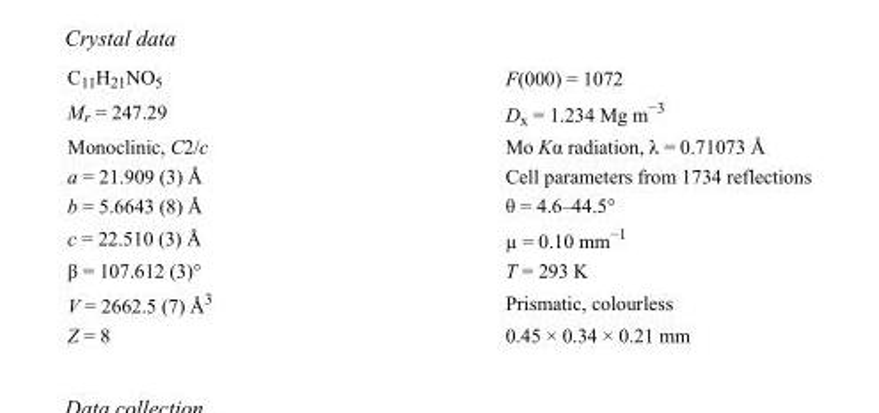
<table><tbody><tr><td>C<sub>11</sub>H<sub>21</sub>NO<sub>5</sub></td><td>F(000) = 1072</td></tr><tr><td>M<sub>r</sub> = 247.29</td><td>D<sub>x</sub> = 1.234 Mg m<sup>−3</sup></td></tr><tr><td>Monoclinic, C2/c</td><td>Mo Kα radiation, λ = 0.71073 Å</td></tr><tr><td>a = 21.909 (3) Å</td><td>Cell parameters from 1734 reflections</td></tr><tr><td>b = 5.6643 (8) Å</td><td>θ = 4.6–44.5°</td></tr><tr><td>c = 22.510 (3) Å</td><td>µ = 0.10 mm<sup>−1</sup></td></tr><tr><td>β = 107.612 (3)°</td><td>T = 293 K</td></tr><tr><td>V = 2662.5 (7) Å<sup>3</sup></td><td>Prismatic, colourless</td></tr><tr><td>Z = 8</td><td>0.45 × 0.34 × 0.21 mm</td></tr></tbody></table>